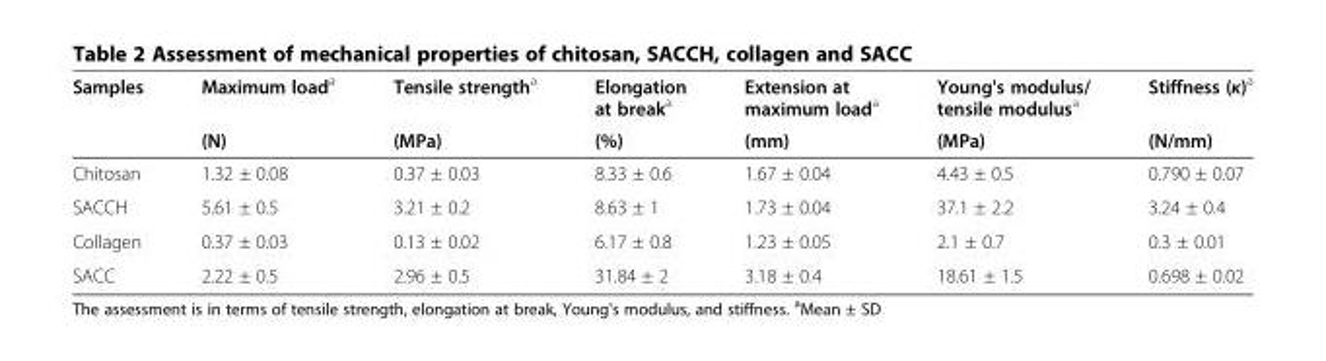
<table><thead><tr><td rowspan="2">Samples</td><td rowspan="2">Maximum load<sup>a</sup> (N)</td><td rowspan="2">Tensile strength<sup>a</sup> (MPa)</td><td rowspan="2">Elongation at break<sup>a</sup> (%)</td><td rowspan="2">Extension at maximum load<sup>a</sup> (mm)</td><td rowspan="2">Young&#x27;s modulus/ tensile modulus<sup>a</sup> (MPa)</td><td rowspan="2">Stiffness (κ)<sup>a</sup> (N/mm)</td></tr><tr></tr></thead><tbody><tr><td>Chitosan</td><td>1.32 ± 0.08</td><td>0.37 ± 0.03</td><td>8.33 ± 0.6</td><td>1.67 ± 0.04</td><td>4.43 ± 0.5</td><td>0.790 ± 0.07</td></tr><tr><td>SACCH</td><td>5.61 ± 0.5</td><td>3.21 ± 0.2</td><td>8.63 ± 1</td><td>1.73 ± 0.04</td><td>37.1 ± 2.2</td><td>3.24 ± 0.4</td></tr><tr><td>Collagen</td><td>0.37 ± 0.03</td><td>0.13 ± 0.02</td><td>6.17 ± 0.8</td><td>1.23 ± 0.05</td><td>2.1 ± 0.7</td><td>0.3 ± 0.01</td></tr><tr><td>SACC</td><td>2.22 ± 0.5</td><td>2.96 ± 0.5</td><td>31.84 ± 2</td><td>3.18 ± 0.4</td><td>18.61 ± 1.5</td><td>0.698 ± 0.02</td></tr></tbody></table>